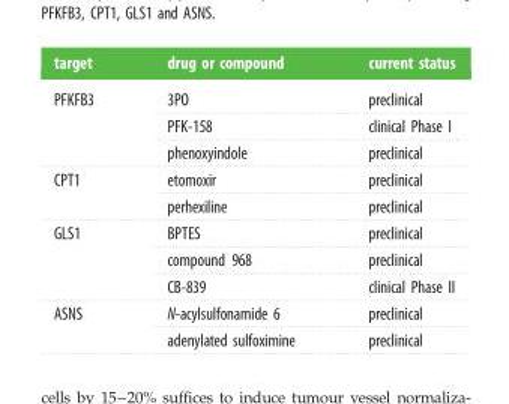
<table><thead><tr><td>target</td><td>drug or compound</td><td>current status</td></tr></thead><tbody><tr><td rowspan="3">PFKFB3</td><td>3PO</td><td>preclinical</td></tr><tr><td>PFK-158</td><td>clinical Phase I</td></tr><tr><td>phenoxyindole</td><td>preclinical</td></tr><tr><td rowspan="2">CPT1</td><td>etomoxir</td><td>preclinical</td></tr><tr><td>perhexiline</td><td>preclinical</td></tr><tr><td rowspan="3">GLS1</td><td>BPTES</td><td>preclinical</td></tr><tr><td>compound 968</td><td>preclinical</td></tr><tr><td>CB-839</td><td>clinical Phase II</td></tr><tr><td rowspan="2">ASNS</td><td>N-acylsulfonamide 6</td><td>preclinical</td></tr><tr><td>adenylated sulfoximine</td><td>preclinical</td></tr></tbody></table>